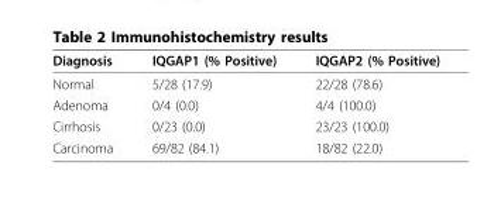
<table><thead><tr><td>Diagnosis</td><td>IQGAP1 (% Positive)</td><td>IQGAP2 (% Positive)</td></tr></thead><tbody><tr><td>Normal</td><td>5/28 (17.9)</td><td>22/28 (78.6)</td></tr><tr><td>Adenoma</td><td>0/4 (0.0)</td><td>4/4 (100.0)</td></tr><tr><td>Cirrhosis</td><td>0/23 (0.0)</td><td>23/23 (100.0)</td></tr><tr><td>Carcinoma</td><td>69/82 (84.1)</td><td>18/82 (22.0)</td></tr></tbody></table>